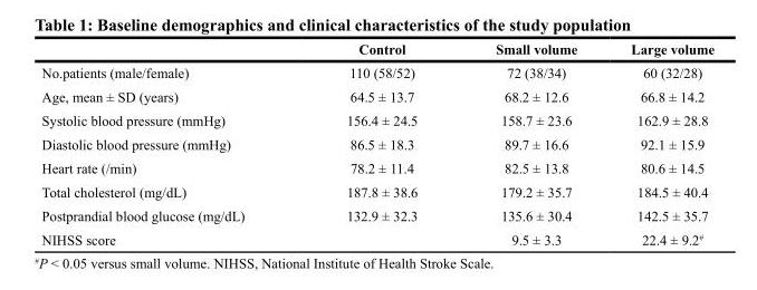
<table><thead><tr><td></td><td>Control</td><td>Small volume</td><td>Large volume</td></tr></thead><tbody><tr><td>No.patients (male/female)</td><td>110 (58/52)</td><td>72 (38/34)</td><td>60 (32/28)</td></tr><tr><td>Age, mean ± SD (years)</td><td>64.5 ± 13.7</td><td>68.2 ± 12.6</td><td>66.8 ± 14.2</td></tr><tr><td>Systolic blood pressure (mmHg)</td><td>156.4 ± 24.5</td><td>158.7 ± 23.6</td><td>162.9 ± 28.8</td></tr><tr><td>Diastolic blood pressure (mmHg)</td><td>86.5 ± 18.3</td><td>89.7 ± 16.6</td><td>92.1 ± 15.9</td></tr><tr><td>Heart rate (/min)</td><td>78.2 ± 11.4</td><td>82.5 ± 13.8</td><td>80.6 ± 14.5</td></tr><tr><td>Total cholesterol (mg/dL)</td><td>187.8 ± 38.6</td><td>179.2 ± 35.7</td><td>184.5 ± 40.4</td></tr><tr><td>Postprandial blood glucose (mg/dL)</td><td>132.9 ± 32.3</td><td>135.6 ± 30.4</td><td>142.5 ± 35.7</td></tr><tr><td>NIHSS score</td><td></td><td>9.5 ± 3.3</td><td>22.4 ± 9.2<sup>#</sup></td></tr></tbody></table>